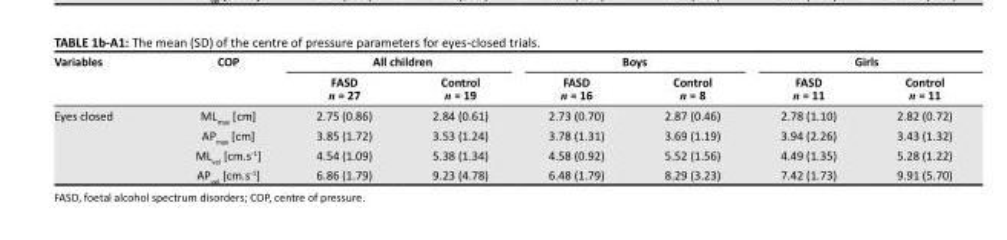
<table><thead><tr><td rowspan="2">Variables</td><td rowspan="2">COP</td><td colspan="2">All children</td><td colspan="2">Boys</td><td colspan="2">Girls</td></tr><tr><td>FASD n = 27</td><td>Control n = 19</td><td>FASD n = 16</td><td>Control n = 8</td><td>FASD n = 11</td><td>Control n = 11</td></tr></thead><tbody><tr><td rowspan="4">Eyes closed</td><td>ML<sub>max</sub> [cm]</td><td>2.75 (0.86)</td><td>2.84 (0.61)</td><td>2.73 (0.70)</td><td>2.87 (0.46)</td><td>2.78 (1.10)</td><td>2.82 (0.72)</td></tr><tr><td>AP<sub>max</sub> [cm]</td><td>3.85 (1.72)</td><td>3.53 (1.24)</td><td>3.78 (1.31)</td><td>3.69 (1.19)</td><td>3.94 (2.26)</td><td>3.43 (1.32)</td></tr><tr><td>ML<sub>vel</sub> [cm.s<sup>-1</sup>]</td><td>4.54 (1.09)</td><td>5.38 (1.34)</td><td>4.58 (0.92)</td><td>5.52 (1.56)</td><td>4.49 (1.35)</td><td>5.28 (1.22)</td></tr><tr><td>AP<sub>vel</sub> [cm.s<sup>-1</sup>]</td><td>6.86 (1.79)</td><td>9.23 (4.78)</td><td>6.48 (1.79)</td><td>8.29 (3.23)</td><td>7.42 (1.73)</td><td>9.91 (5.70)</td></tr></tbody></table>